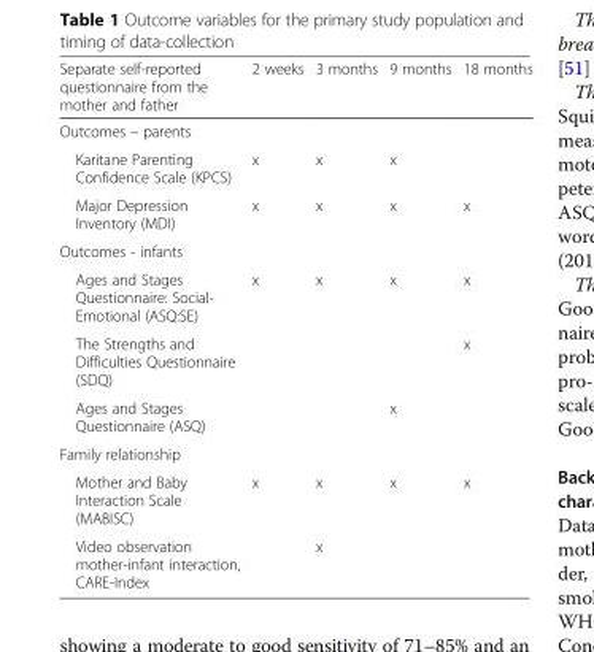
<table><thead><tr><td>Separate self-reported questionnaire from the mother and father</td><td>2 weeks</td><td>3 months</td><td>9 months</td><td>18 months</td></tr></thead><tbody><tr><td colspan="5">Outcomes – parents</td></tr><tr><td>Karitane Parenting Confidence Scale (KPCS)</td><td>x</td><td>x</td><td>x</td><td></td></tr><tr><td>Major Depression Inventory (MDI)</td><td>x</td><td>x</td><td>x</td><td>x</td></tr><tr><td colspan="5">Outcomes - infants</td></tr><tr><td>Ages and Stages Questionnaire: Social- Emotional (ASQ:SE)</td><td>x</td><td>x</td><td>x</td><td>x</td></tr><tr><td>The Strengths and Difficulties Questionnaire (SDQ)</td><td></td><td></td><td></td><td>x</td></tr><tr><td>Ages and Stages Questionnaire (ASQ)</td><td></td><td></td><td>x</td><td></td></tr><tr><td colspan="5">Family relationship</td></tr><tr><td>Mother and Baby Interaction Scale (MABISC)</td><td>x</td><td>x</td><td>x</td><td>x</td></tr><tr><td>Video observation mother-infant interaction, CARE-Index</td><td></td><td>x</td><td></td><td></td></tr></tbody></table>